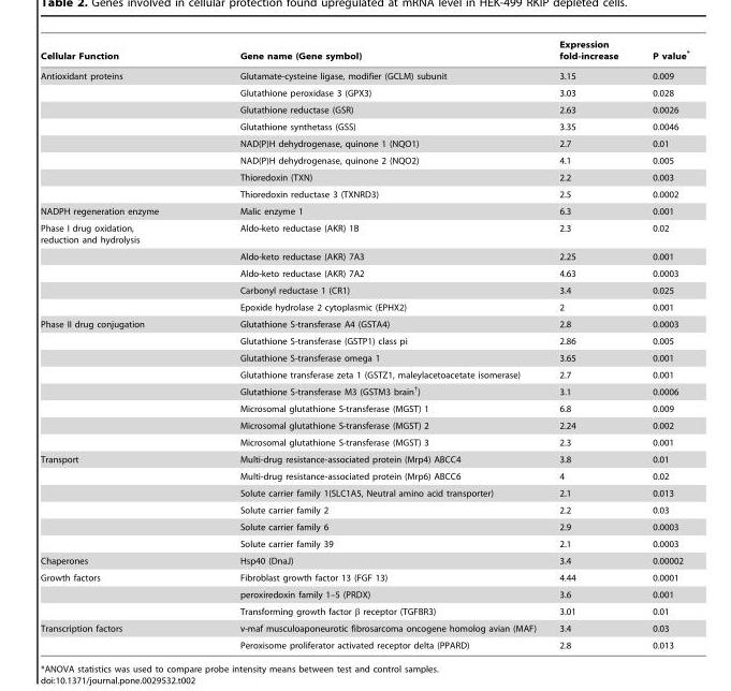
<table><thead><tr><td>Cellular Function</td><td>Gene name (Gene symbol)</td><td>Expression fold-increase</td><td>P value*</td></tr></thead><tbody><tr><td rowspan="8">Antioxidant proteins</td><td>Glutamate-cysteine ligase, modifier (GCLM) subunit</td><td>3.15</td><td>0.009</td></tr><tr><td>Glutathione peroxidase 3 (GPX3)</td><td>3.03</td><td>0.028</td></tr><tr><td>Glutathione reductase (GSR)</td><td>2.63</td><td>0.0026</td></tr><tr><td>Glutathione synthetass (GSS)</td><td>3.35</td><td>0.0046</td></tr><tr><td>NAD(P)H dehydrogenase, quinone 1 (NQO1)</td><td>2.7</td><td>0.01</td></tr><tr><td>NAD(P)H dehydrogenase, quinone 2 (NQO2)</td><td>4.1</td><td>0.005</td></tr><tr><td>Thioredoxin (TXN)</td><td>2.2</td><td>0.003</td></tr><tr><td>Thioredoxin reductase 3 (TXNRD3)</td><td>2.5</td><td>0.0002</td></tr><tr><td>NADPH regeneration enzyme</td><td>Malic enzyme 1</td><td>6.3</td><td>0.001</td></tr><tr><td rowspan="5">Phase I drug oxidation, reduction and hydrolysis</td><td>Aldo-keto reductase (AKR) 1B</td><td>2.3</td><td>0.02</td></tr><tr><td>Aldo-keto reductase (AKR) 7A3</td><td>2.25</td><td>0.001</td></tr><tr><td>Aldo-keto reductase (AKR) 7A2</td><td>4.63</td><td>0.0003</td></tr><tr><td>Carbonyl reductase 1 (CR1)</td><td>3.4</td><td>0.025</td></tr><tr><td>Epoxide hydrolase 2 cytoplasmic (EPHX2)</td><td>2</td><td>0.001</td></tr><tr><td rowspan="8">Phase II drug conjugation</td><td>Glutathione S-transferase A4 (GSTA4)</td><td>2.8</td><td>0.0003</td></tr><tr><td>Glutathione S-transferase (GSTP1) class pi</td><td>2.86</td><td>0.005</td></tr><tr><td>Glutathione S-transferase omega 1</td><td>3.65</td><td>0.001</td></tr><tr><td>Glutathione transferase zeta 1 (GSTZ1, maleylacetoacetate isomerase)</td><td>2.7</td><td>0.001</td></tr><tr><td>Glutathione S-transferase M3 (GSTM3 brain<sup>†</sup>)</td><td>3.1</td><td>0.0006</td></tr><tr><td>Microsomal glutathione S-transferase (MGST) 1</td><td>6.8</td><td>0.009</td></tr><tr><td>Microsomal glutathione S-transferase (MGST) 2</td><td>2.24</td><td>0.002</td></tr><tr><td>Microsomal glutathione S-transferase (MGST) 3</td><td>2.3</td><td>0.001</td></tr><tr><td rowspan="6">Transport</td><td>Multi-drug resistance-associated protein (Mrp4) ABCC4</td><td>3.8</td><td>0.01</td></tr><tr><td>Multi-drug resistance-associated protein (Mrp6) ABCC6</td><td>4</td><td>0.02</td></tr><tr><td>Solute carrier family 1(SLC1A5, Neutral amino acid transporter)</td><td>2.1</td><td>0.013</td></tr><tr><td>Solute carrier family 2</td><td>2.2</td><td>0.03</td></tr><tr><td>Solute carrier family 6</td><td>2.9</td><td>0.0003</td></tr><tr><td>Solute carrier family 39</td><td>2.1</td><td>0.0003</td></tr><tr><td>Chaperones</td><td>Hsp40 (DnaJ)</td><td>3.4</td><td>0.00002</td></tr><tr><td rowspan="3">Growth factors</td><td>Fibroblast growth factor 13 (FGF 13)</td><td>4.44</td><td>0.0001</td></tr><tr><td>peroxiredoxin family 1–5 (PRDX)</td><td>3.6</td><td>0.001</td></tr><tr><td>Transforming growth factor β receptor (TGFBR3)</td><td>3.01</td><td>0.01</td></tr><tr><td rowspan="2">Transcription factors</td><td>v-maf musculoaponeurotic fibrosarcoma oncogene homolog avian (MAF)</td><td>3.4</td><td>0.03</td></tr><tr><td>Peroxisome proliferator activated receptor delta (PPARD)</td><td>2.8</td><td>0.013</td></tr></tbody></table>